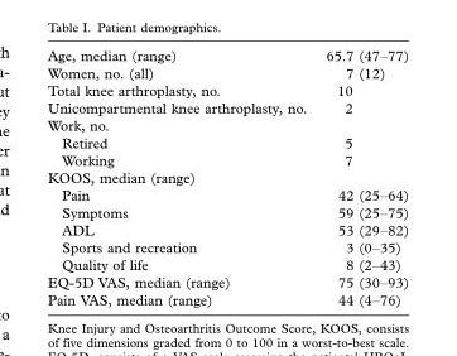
<table><tbody><tr><td>Age, median (range)</td><td>65.7 (47–77)</td></tr><tr><td>Women, no. (all)</td><td>7 (12)</td></tr><tr><td>Total knee arthroplasty, no.</td><td>10</td></tr><tr><td>Unicompartmental knee arthroplasty, no.</td><td>2</td></tr><tr><td colspan="2">Work, no.</td></tr><tr><td>Retired</td><td>5</td></tr><tr><td>Working</td><td>7</td></tr><tr><td colspan="2">KOOS, median (range)</td></tr><tr><td>Pain</td><td>42 (25–64)</td></tr><tr><td>Symptoms</td><td>59 (25–75)</td></tr><tr><td>ADL</td><td>53 (29–82)</td></tr><tr><td>Sports and recreation</td><td>3 (0–35)</td></tr><tr><td>Quality of life</td><td>8 (2–43)</td></tr><tr><td>EQ-5D VAS, median (range)</td><td>75 (30–93)</td></tr><tr><td>Pain VAS, median (range)</td><td>44 (4–76)</td></tr></tbody></table>